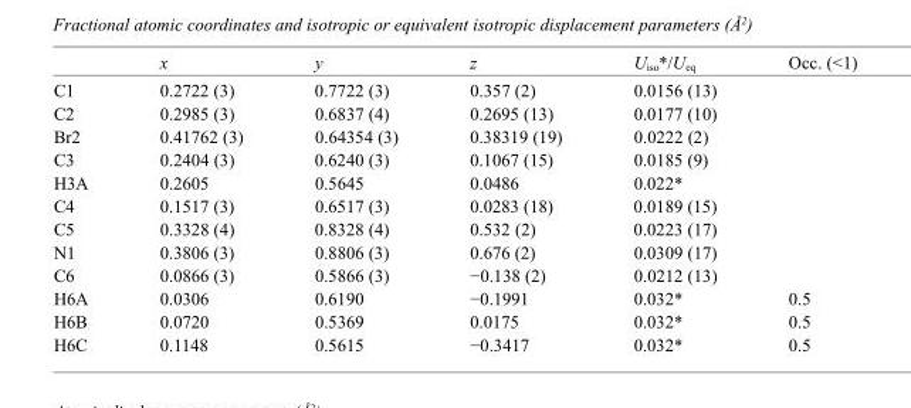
<table><thead><tr><td></td><td>x</td><td>y</td><td>z</td><td>U<sub>iso</sub>*/U<sub>eq</sub></td><td>Occ. (&lt;1)</td></tr></thead><tbody><tr><td>C1</td><td>0.2722 (3)</td><td>0.7722 (3)</td><td>0.357 (2)</td><td>0.0156 (13)</td><td></td></tr><tr><td>C2</td><td>0.2985 (3)</td><td>0.6837 (4)</td><td>0.2695 (13)</td><td>0.0177 (10)</td><td></td></tr><tr><td>Br2</td><td>0.41762 (3)</td><td>0.64354 (3)</td><td>0.38319 (19)</td><td>0.0222 (2)</td><td></td></tr><tr><td>C3</td><td>0.2404 (3)</td><td>0.6240 (3)</td><td>0.1067 (15)</td><td>0.0185 (9)</td><td></td></tr><tr><td>H3A</td><td>0.2605</td><td>0.5645</td><td>0.0486</td><td>0.022*</td><td></td></tr><tr><td>C4</td><td>0.1517 (3)</td><td>0.6517 (3)</td><td>0.0283 (18)</td><td>0.0189 (15)</td><td></td></tr><tr><td>C5</td><td>0.3328 (4)</td><td>0.8328 (4)</td><td>0.532 (2)</td><td>0.0223 (17)</td><td></td></tr><tr><td>N1</td><td>0.3806 (3)</td><td>0.8806 (3)</td><td>0.676 (2)</td><td>0.0309 (17)</td><td></td></tr><tr><td>C6</td><td>0.0866 (3)</td><td>0.5866 (3)</td><td>−0.138 (2)</td><td>0.0212 (13)</td><td></td></tr><tr><td>H6A</td><td>0.0306</td><td>0.6190</td><td>−0.1991</td><td>0.032*</td><td>0.5</td></tr><tr><td>H6B</td><td>0.0720</td><td>0.5369</td><td>0.0175</td><td>0.032*</td><td>0.5</td></tr><tr><td>H6C</td><td>0.1148</td><td>0.5615</td><td>−0.3417</td><td>0.032*</td><td>0.5</td></tr></tbody></table>